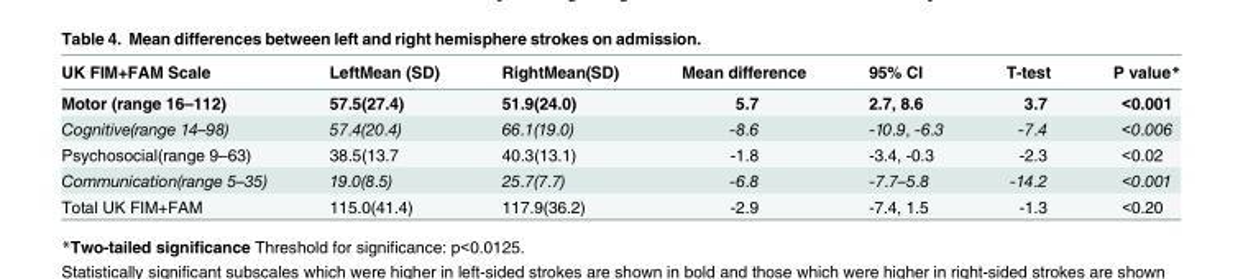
<table><thead><tr><td>UK FIM+FAM Scale</td><td>LeftMean (SD)</td><td>RightMean(SD)</td><td>Mean difference</td><td>95% CI</td><td>T-test</td><td>P value*</td></tr></thead><tbody><tr><td>Motor (range 16–112)</td><td>57.5(27.4)</td><td>51.9(24.0)</td><td>5.7</td><td>2.7, 8.6</td><td>3.7</td><td>&lt;0.001</td></tr><tr><td>Cognitive(range 14–98)</td><td>57.4(20.4)</td><td>66.1(19.0)</td><td>-8.6</td><td>-10.9, -6.3</td><td>-7.4</td><td>&lt;0.006</td></tr><tr><td>Psychosocial(range 9–63)</td><td>38.5(13.7</td><td>40.3(13.1)</td><td>-1.8</td><td>-3.4, -0.3</td><td>-2.3</td><td>&lt;0.02</td></tr><tr><td>Communication(range 5–35)</td><td>19.0(8.5)</td><td>25.7(7.7)</td><td>-6.8</td><td>-7.7–5.8</td><td>-14.2</td><td>&lt;0.001</td></tr><tr><td>Total UK FIM+FAM</td><td>115.0(41.4)</td><td>117.9(36.2)</td><td>-2.9</td><td>-7.4, 1.5</td><td>-1.3</td><td>&lt;0.20</td></tr></tbody></table>